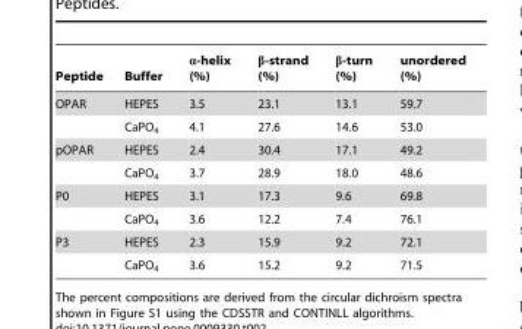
<table><thead><tr><td>Peptide</td><td>Buffer</td><td>α-helix (%)</td><td>β-strand (%)</td><td>β-turn (%)</td><td>unordered (%)</td></tr></thead><tbody><tr><td rowspan="2">OPAR</td><td>HEPES</td><td>3.5</td><td>23.1</td><td>13.1</td><td>59.7</td></tr><tr><td>CaPO<sub>4</sub></td><td>4.1</td><td>27.6</td><td>14.6</td><td>53.0</td></tr><tr><td rowspan="2">pOPAR</td><td>HEPES</td><td>2.4</td><td>30.4</td><td>17.1</td><td>49.2</td></tr><tr><td>CaPO<sub>4</sub></td><td>3.7</td><td>28.9</td><td>18.0</td><td>48.6</td></tr><tr><td rowspan="2">P0</td><td>HEPES</td><td>3.1</td><td>17.3</td><td>9.6</td><td>69.8</td></tr><tr><td>CaPO<sub>4</sub></td><td>3.6</td><td>12.2</td><td>7.4</td><td>76.1</td></tr><tr><td rowspan="2">P3</td><td>HEPES</td><td>2.3</td><td>15.9</td><td>9.2</td><td>72.1</td></tr><tr><td>CaPO<sub>4</sub></td><td>3.6</td><td>15.2</td><td>9.2</td><td>71.5</td></tr></tbody></table>